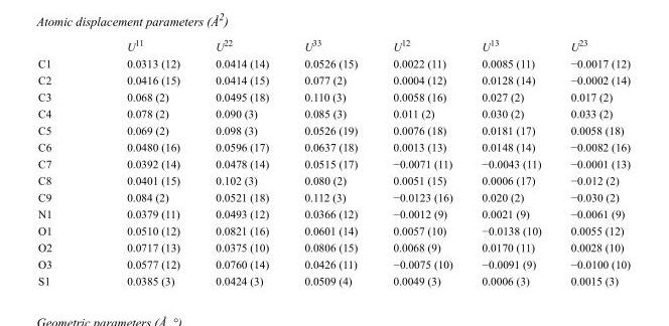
<table><thead><tr><td></td><td>U<sup>11</sup></td><td>U<sup>22</sup></td><td>U<sup>33</sup></td><td>U<sup>12</sup></td><td>U<sup>13</sup></td><td>U<sup>23</sup></td></tr></thead><tbody><tr><td>C1</td><td>0.0313 (12)</td><td>0.0414 (14)</td><td>0.0526 (15)</td><td>0.0022 (11)</td><td>0.0085 (11)</td><td>−0.0017 (12)</td></tr><tr><td>C2</td><td>0.0416 (15)</td><td>0.0414 (15)</td><td>0.077 (2)</td><td>0.0004 (12)</td><td>0.0128 (14)</td><td>−0.0002 (14)</td></tr><tr><td>C3</td><td>0.068 (2)</td><td>0.0495 (18)</td><td>0.110 (3)</td><td>0.0058 (16)</td><td>0.027 (2)</td><td>0.017 (2)</td></tr><tr><td>C4</td><td>0.078 (2)</td><td>0.090 (3)</td><td>0.085 (3)</td><td>0.011 (2)</td><td>0.030 (2)</td><td>0.033 (2)</td></tr><tr><td>C5</td><td>0.069 (2)</td><td>0.098 (3)</td><td>0.0526 (19)</td><td>0.0076 (18)</td><td>0.0181 (17)</td><td>0.0058 (18)</td></tr><tr><td>C6</td><td>0.0480 (16)</td><td>0.0596 (17)</td><td>0.0637 (18)</td><td>0.0013 (13)</td><td>0.0148 (14)</td><td>−0.0082 (16)</td></tr><tr><td>C7</td><td>0.0392 (14)</td><td>0.0478 (14)</td><td>0.0515 (17)</td><td>−0.0071 (11)</td><td>−0.0043 (11)</td><td>−0.0001 (13)</td></tr><tr><td>C8</td><td>0.0401 (15)</td><td>0.102 (3)</td><td>0.080 (2)</td><td>0.0051 (15)</td><td>0.0006 (17)</td><td>−0.012 (2)</td></tr><tr><td>C9</td><td>0.084 (2)</td><td>0.0521 (18)</td><td>0.112 (3)</td><td>−0.0123 (16)</td><td>0.020 (2)</td><td>−0.030 (2)</td></tr><tr><td>N1</td><td>0.0379 (11)</td><td>0.0493 (12)</td><td>0.0366 (12)</td><td>−0.0012 (9)</td><td>0.0021 (9)</td><td>−0.0061 (9)</td></tr><tr><td>O1</td><td>0.0510 (12)</td><td>0.0821 (16)</td><td>0.0601 (14)</td><td>0.0057 (10)</td><td>−0.0138 (10)</td><td>0.0055 (12)</td></tr><tr><td>O2</td><td>0.0717 (13)</td><td>0.0375 (10)</td><td>0.0806 (15)</td><td>0.0068 (9)</td><td>0.0170 (11)</td><td>0.0028 (10)</td></tr><tr><td>O3</td><td>0.0577 (12)</td><td>0.0760 (14)</td><td>0.0426 (11)</td><td>−0.0075 (10)</td><td>−0.0091 (9)</td><td>−0.0100 (10)</td></tr><tr><td>S1</td><td>0.0385 (3)</td><td>0.0424 (3)</td><td>0.0509 (4)</td><td>0.0049 (3)</td><td>0.0006 (3)</td><td>0.0015 (3)</td></tr></tbody></table>